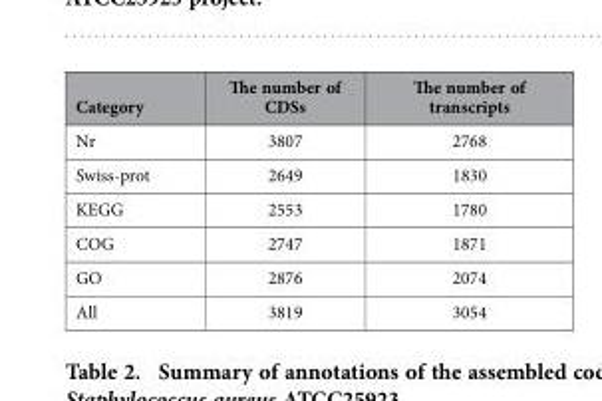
<table><thead><tr><td>Category</td><td>The number of CDSs</td><td>The number of transcripts</td></tr></thead><tbody><tr><td>Nr</td><td>3807</td><td>2768</td></tr><tr><td>Swiss-prot</td><td>2649</td><td>1830</td></tr><tr><td>KEGG</td><td>2553</td><td>1780</td></tr><tr><td>COG</td><td>2747</td><td>1871</td></tr><tr><td>GO</td><td>2876</td><td>2074</td></tr><tr><td>All</td><td>3819</td><td>3054</td></tr></tbody></table>